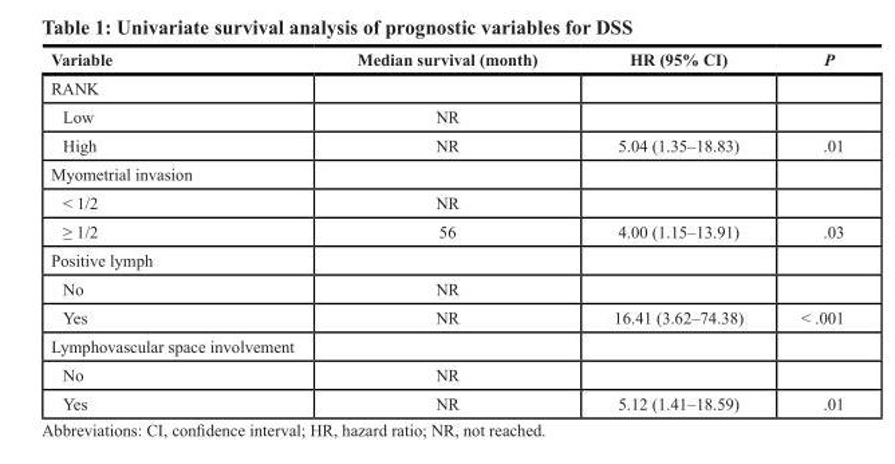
<table><thead><tr><td>Variable</td><td>Median survival (month)</td><td>HR (95% CI)</td><td>P</td></tr></thead><tbody><tr><td colspan="4">RANK</td></tr><tr><td>Low</td><td>NR</td><td></td><td></td></tr><tr><td>High</td><td>NR</td><td>5.04 (1.35–18.83)</td><td>.01</td></tr><tr><td colspan="4">Myometrial invasion</td></tr><tr><td>&lt; 1/2</td><td>NR</td><td></td><td></td></tr><tr><td>≥ 1/2</td><td>56</td><td>4.00 (1.15–13.91)</td><td>.03</td></tr><tr><td colspan="4">Positive lymph</td></tr><tr><td>No</td><td>NR</td><td></td><td></td></tr><tr><td>Yes</td><td>NR</td><td>16.41 (3.62–74.38)</td><td>&lt; .001</td></tr><tr><td colspan="4">Lymphovascular space involvement</td></tr><tr><td>No</td><td>NR</td><td></td><td></td></tr><tr><td>Yes</td><td>NR</td><td>5.12 (1.41–18.59)</td><td>.01</td></tr></tbody></table>